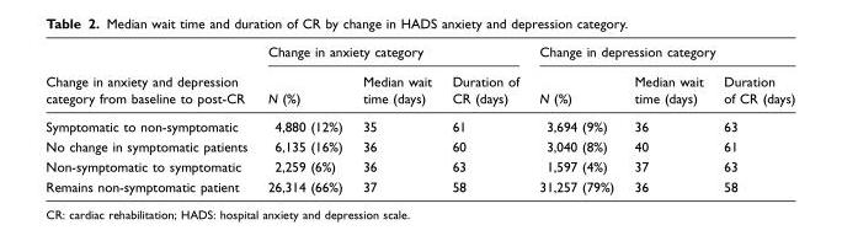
<table><thead><tr><td rowspan="2">Change in anxiety and depression category from baseline to post-CR</td><td colspan="3">Change in anxiety category</td><td colspan="3">Change in depression category</td></tr><tr><td>N (%)</td><td>Median wait time (days)</td><td>Duration of CR (days)</td><td>N (%)</td><td>Median wait time (days)</td><td>Duration of CR (days)</td></tr></thead><tbody><tr><td>Symptomatic to non-symptomatic</td><td>4,880 (12%)</td><td>35</td><td>61</td><td>3,694 (9%)</td><td>36</td><td>63</td></tr><tr><td>No change in symptomatic patients</td><td>6,135 (16%)</td><td>36</td><td>60</td><td>3,040 (8%)</td><td>40</td><td>61</td></tr><tr><td>Non-symptomatic to symptomatic</td><td>2,259 (6%)</td><td>36</td><td>63</td><td>1,597 (4%)</td><td>37</td><td>63</td></tr><tr><td>Remains non-symptomatic patient</td><td>26,314 (66%)</td><td>37</td><td>58</td><td>31,257 (79%)</td><td>36</td><td>58</td></tr></tbody></table>